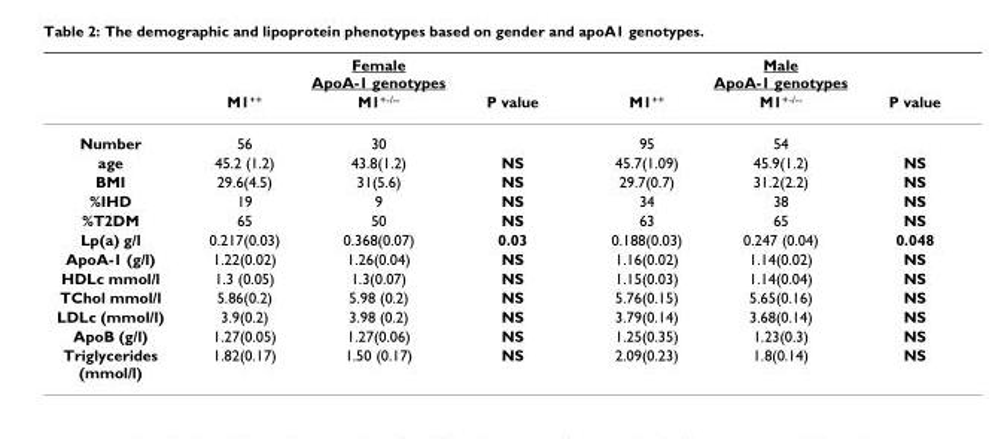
<table><thead><tr><td rowspan="2"></td><td colspan="3">Female ApoA-1 genotypes</td><td colspan="3">Male ApoA-1 genotypes</td></tr><tr><td>M1<sup>++</sup></td><td>M1<sup>+-/--</sup></td><td>P value</td><td>M1<sup>++</sup></td><td>M1<sup>+-/--</sup></td><td>P value</td></tr></thead><tbody><tr><td>Number</td><td>56</td><td>30</td><td></td><td>95</td><td>54</td><td></td></tr><tr><td>age</td><td>45.2 (1.2)</td><td>43.8(1.2)</td><td>NS</td><td>45.7(1.09)</td><td>45.9(1.2)</td><td>NS</td></tr><tr><td>BMI</td><td>29.6(4.5)</td><td>31(5.6)</td><td>NS</td><td>29.7(0.7)</td><td>31.2(2.2)</td><td>NS</td></tr><tr><td>%IHD</td><td>19</td><td>9</td><td>NS</td><td>34</td><td>38</td><td>NS</td></tr><tr><td>%T2DM</td><td>65</td><td>50</td><td>NS</td><td>63</td><td>65</td><td>NS</td></tr><tr><td>Lp(a) g/l</td><td>0.217(0.03)</td><td>0.368(0.07)</td><td>0.03</td><td>0.188(0.03)</td><td>0.247 (0.04)</td><td>0.048</td></tr><tr><td>ApoA-1 (g/l)</td><td>1.22(0.02)</td><td>1.26(0.04)</td><td>NS</td><td>1.16(0.02)</td><td>1.14(0.02)</td><td>NS</td></tr><tr><td>HDLc mmol/l</td><td>1.3 (0.05)</td><td>1.3(0.07)</td><td>NS</td><td>1.15(0.03)</td><td>1.14(0.04)</td><td>NS</td></tr><tr><td>TChol mmol/l</td><td>5.86(0.2)</td><td>5.98 (0.2)</td><td>NS</td><td>5.76(0.15)</td><td>5.65(0.16)</td><td>NS</td></tr><tr><td>LDLc (mmol/l)</td><td>3.9(0.2)</td><td>3.98 (0.2)</td><td>NS</td><td>3.79(0.14)</td><td>3.68(0.14)</td><td>NS</td></tr><tr><td>ApoB (g/l)</td><td>1.27(0.05)</td><td>1.27(0.06)</td><td>NS</td><td>1.25(0.35)</td><td>1.23(0.3)</td><td>NS</td></tr><tr><td>Triglycerides (mmol/l)</td><td>1.82(0.17)</td><td>1.50 (0.17)</td><td>NS</td><td>2.09(0.23)</td><td>1.8(0.14)</td><td>NS</td></tr></tbody></table>